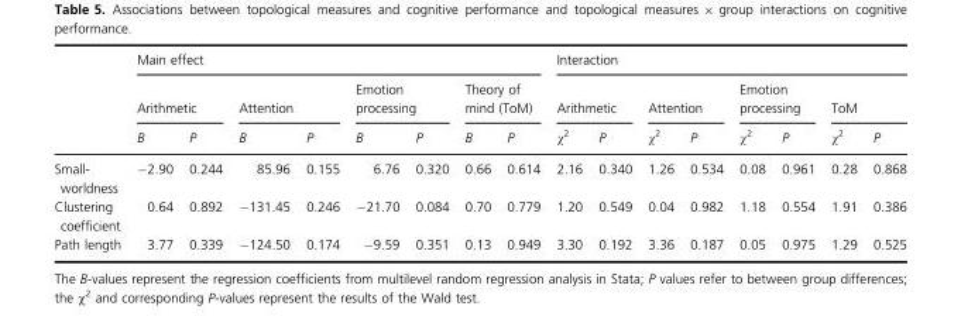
<table><thead><tr><td rowspan="3"></td><td colspan="8">Main effect</td><td colspan="8">Interaction</td></tr><tr><td colspan="2">Arithmetic</td><td colspan="2">Attention</td><td colspan="2">Emotion processing</td><td colspan="2">Theory of mind (ToM)</td><td colspan="2">Arithmetic</td><td colspan="2">Attention</td><td colspan="2">Emotion processing</td><td colspan="2">ToM</td></tr><tr><td>B</td><td>P</td><td>B</td><td>P</td><td>B</td><td>P</td><td>B</td><td>P</td><td>χ<sup>2</sup></td><td>P</td><td>χ<sup>2</sup></td><td>P</td><td>χ<sup>2</sup></td><td>P</td><td>χ<sup>2</sup></td><td>P</td></tr></thead><tbody><tr><td>Small- worldness</td><td>−2.90</td><td>0.244</td><td>85.96</td><td>0.155</td><td>6.76</td><td>0.320</td><td>0.66</td><td>0.614</td><td>2.16</td><td>0.340</td><td>1.26</td><td>0.534</td><td>0.08</td><td>0.961</td><td>0.28</td><td>0.868</td></tr><tr><td>Clustering coefficient</td><td>0.64</td><td>0.892</td><td>−131.45</td><td>0.246</td><td>−21.70</td><td>0.084</td><td>0.70</td><td>0.779</td><td>1.20</td><td>0.549</td><td>0.04</td><td>0.982</td><td>1.18</td><td>0.554</td><td>1.91</td><td>0.386</td></tr><tr><td>Path length</td><td>3.77</td><td>0.339</td><td>−124.50</td><td>0.174</td><td>−9.59</td><td>0.351</td><td>0.13</td><td>0.949</td><td>3.30</td><td>0.192</td><td>3.36</td><td>0.187</td><td>0.05</td><td>0.975</td><td>1.29</td><td>0.525</td></tr></tbody></table>